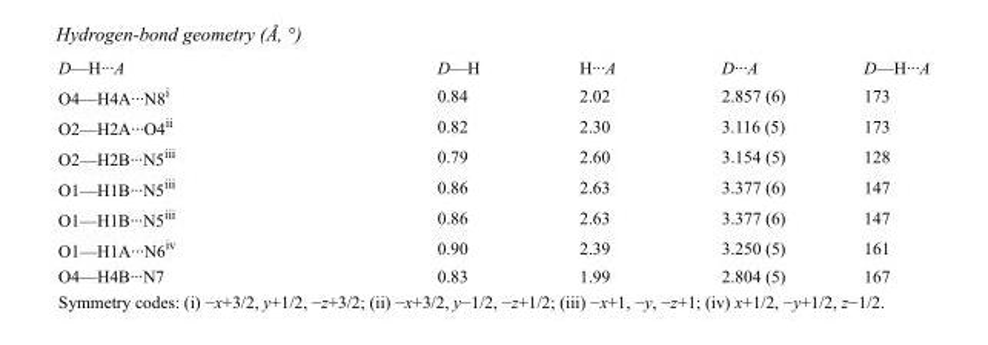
<table><tbody><tr><td>D—H···A</td><td>D—H</td><td>H···A</td><td>D···A</td><td>D—H···A</td></tr><tr><td>O4—H4A···N8<sup>i</sup></td><td>0.84</td><td>2.02</td><td>2.857 (6)</td><td>173</td></tr><tr><td>O2—H2A···O4<sup>ii</sup></td><td>0.82</td><td>2.30</td><td>3.116 (5)</td><td>173</td></tr><tr><td>O2—H2B···N5<sup>iii</sup></td><td>0.79</td><td>2.60</td><td>3.154 (5)</td><td>128</td></tr><tr><td>O1—H1B···N5<sup>iii</sup></td><td>0.86</td><td>2.63</td><td>3.377 (6)</td><td>147</td></tr><tr><td>O1—H1B···N5<sup>iii</sup></td><td>0.86</td><td>2.63</td><td>3.377 (6)</td><td>147</td></tr><tr><td>O1—H1A···N6<sup>iv</sup></td><td>0.90</td><td>2.39</td><td>3.250 (5)</td><td>161</td></tr><tr><td>O4—H4B···N7</td><td>0.83</td><td>1.99</td><td>2.804 (5)</td><td>167</td></tr></tbody></table>